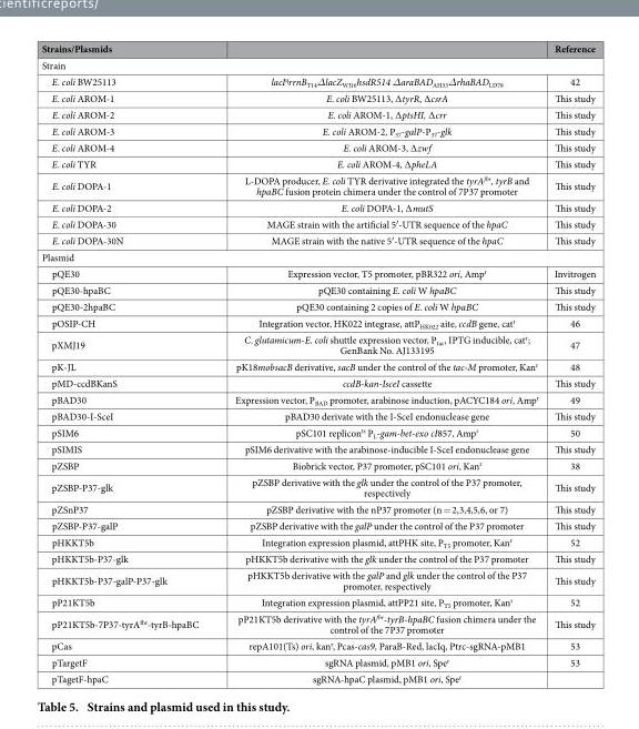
<table><thead><tr><td>Strains/Plasmids</td><td></td><td>Reference</td></tr></thead><tbody><tr><td colspan="3">Strain</td></tr><tr><td>E. coli BW25113</td><td>lacI<sup>q</sup>rrnB<sub>T14</sub>ΔlacZ<sub>WJ16</sub>hsdR514 ΔaraBAD<sub>AH33</sub>ΔrhaBAD<sub>LD78</sub></td><td>42</td></tr><tr><td>E. coli AROM-1</td><td>E. coli BW25113, ∆ tyrR, ∆ csrA</td><td>This study</td></tr><tr><td>E. coli AROM-2</td><td>E. coli AROM-1, ∆ ptsHI, ∆ crr</td><td>This study</td></tr><tr><td>E. coli AROM-3</td><td>E. coli AROM-2, P<sub>37</sub>-galP-P<sub>37</sub>-glk</td><td>This study</td></tr><tr><td>E. coli AROM-4</td><td>E. coli AROM-3, ∆ zwf</td><td>This study</td></tr><tr><td>E. coli TYR</td><td>E. coli AROM-4, ∆ pheLA</td><td>This study</td></tr><tr><td>E. coli DOPA-1</td><td>L-DOPA producer, E. coli TYR derivative integrated the tyrA<sup>fbr</sup>, tyrB and hpaBC fusion protein chimera under the control of 7P37 promoter</td><td>This study</td></tr><tr><td>E. coli DOPA-2</td><td>E. coli DOPA-1, ∆ mutS</td><td>This study</td></tr><tr><td>E. coli DOPA-30</td><td>MAGE strain with the artificial 5′ -UTR sequence of the hpaC</td><td>This study</td></tr><tr><td>E. coli DOPA-30N</td><td>MAGE strain with the native 5′ -UTR sequence of the hpaC</td><td>This study</td></tr><tr><td colspan="3">Plasmid</td></tr><tr><td>pQE30</td><td>Expression vector, T5 promoter, pBR322 ori, Amp<sup>r</sup></td><td>Invitrogen</td></tr><tr><td>pQE30-hpaBC</td><td>pQE30 containing E. coli W hpaBC</td><td>This study</td></tr><tr><td>pQE30-2hpaBC</td><td>pQE30 containing 2 copies of E. coli W hpaBC</td><td>This study</td></tr><tr><td>pOSIP-CH</td><td>Integration vector, HK022 integrase, attP<sub>HK022</sub> aite, ccdB gene, cat<sup>r</sup></td><td>46</td></tr><tr><td>pXMJ19</td><td>C. glutamicum-E. coli shuttle expression vector, P<sub>tac</sub>, IPTG inducible, cat<sup>r</sup>; GenBank No. AJ133195</td><td>47</td></tr><tr><td>pK-JL</td><td>pK18mobsacB derivative, sacB under the control of the tac-M promoter, Kan<sup>r</sup></td><td>48</td></tr><tr><td>pMD-ccdBKanS</td><td>ccdB-kan-IsceI cassette</td><td>This study</td></tr><tr><td>pBAD30</td><td>Expression vector, P<sub>BAD</sub> promoter, arabinose induction, pACYC184 ori, Amp<sup>r</sup></td><td>49</td></tr><tr><td>pBAD30-I-SceI</td><td>pBAD30 derivate with the I-SceI endonuclease gene</td><td>This study</td></tr><tr><td>pSIM6</td><td>pSC101 replicon<sup>ts</sup> P<sub>L</sub>-gam-bet-exo cI857, Amp<sup>r</sup></td><td>50</td></tr><tr><td>pSIMIS</td><td>pSIM6 derivative with the arabinose-inducible I-SceI endonuclease gene</td><td>This study</td></tr><tr><td>pZSBP</td><td>Biobrick vector, P37 promoter, pSC101 ori, Kan<sup>r</sup></td><td>38</td></tr><tr><td>pZSBP-P37-glk</td><td>pZSBP derivative with the glk under the control of the P37 promoter, respectively</td><td>This study</td></tr><tr><td>pZSnP37</td><td>pZSBP derivative with the nP37 promoter (n = 2,3,4,5,6, or 7)</td><td>This study</td></tr><tr><td>pZSBP-P37-galP</td><td>pZSBP derivative with the galP under the control of the P37 promoter</td><td>This study</td></tr><tr><td>pHKKT5b</td><td>Integration expression plasmid, attPHK site, P<sub>T5</sub> promoter, Kan<sup>r</sup></td><td>52</td></tr><tr><td>pHKKT5b-P37-glk</td><td>pHKKT5b derivative with the glk under the control of the P37 promoter</td><td>This study</td></tr><tr><td>pHKKT5b-P37-galP-P37-glk</td><td>pHKKT5b derivative with the galP and glk under the control of the P37 promoter, respectively</td><td>This study</td></tr><tr><td>pP21KT5b</td><td>Integration expression plasmid, attPP21 site, P<sub>T5</sub> promoter, Kan<sup>r</sup></td><td>52</td></tr><tr><td>pP21KT5b-7P37-tyrA<sup>fbr</sup>-tyrB-hpaBC</td><td>pP21KT5b derivative with the tyrA<sup>fbr</sup>-tyrB-hpaBC fusion chimera under the control of the 7P37 promoter</td><td>This study</td></tr><tr><td>pCas</td><td>repA101(Ts) ori, kan<sup>r</sup>, Pcas-cas9, ParaB-Red, lacIq, Ptrc-sgRNA-pMB1</td><td>53</td></tr><tr><td>pTargetF</td><td>sgRNA plasmid, pMB1 ori, Spe<sup>r</sup></td><td>53</td></tr><tr><td>pTagetF-hpaC</td><td>sgRNA-hpaC plasmid, pMB1 ori, Spe<sup>r</sup></td><td></td></tr></tbody></table>